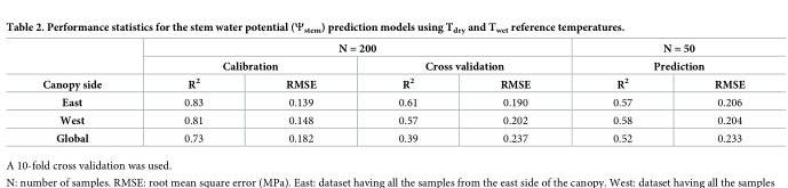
<table><thead><tr><td rowspan="3">Canopy side</td><td colspan="4">N = 200</td><td rowspan="2" colspan="2">N = 50 Prediction</td></tr><tr><td colspan="2">Calibration</td><td colspan="2">Cross validation</td></tr><tr><td>R<sup>2</sup></td><td>RMSE</td><td>R<sup>2</sup></td><td>RMSE</td><td>R<sup>2</sup></td><td>RMSE</td></tr></thead><tbody><tr><td>East</td><td>0.83</td><td>0.139</td><td>0.61</td><td>0.190</td><td>0.57</td><td>0.206</td></tr><tr><td>West</td><td>0.81</td><td>0.148</td><td>0.57</td><td>0.202</td><td>0.58</td><td>0.204</td></tr><tr><td>Global</td><td>0.73</td><td>0.182</td><td>0.39</td><td>0.237</td><td>0.52</td><td>0.233</td></tr></tbody></table>